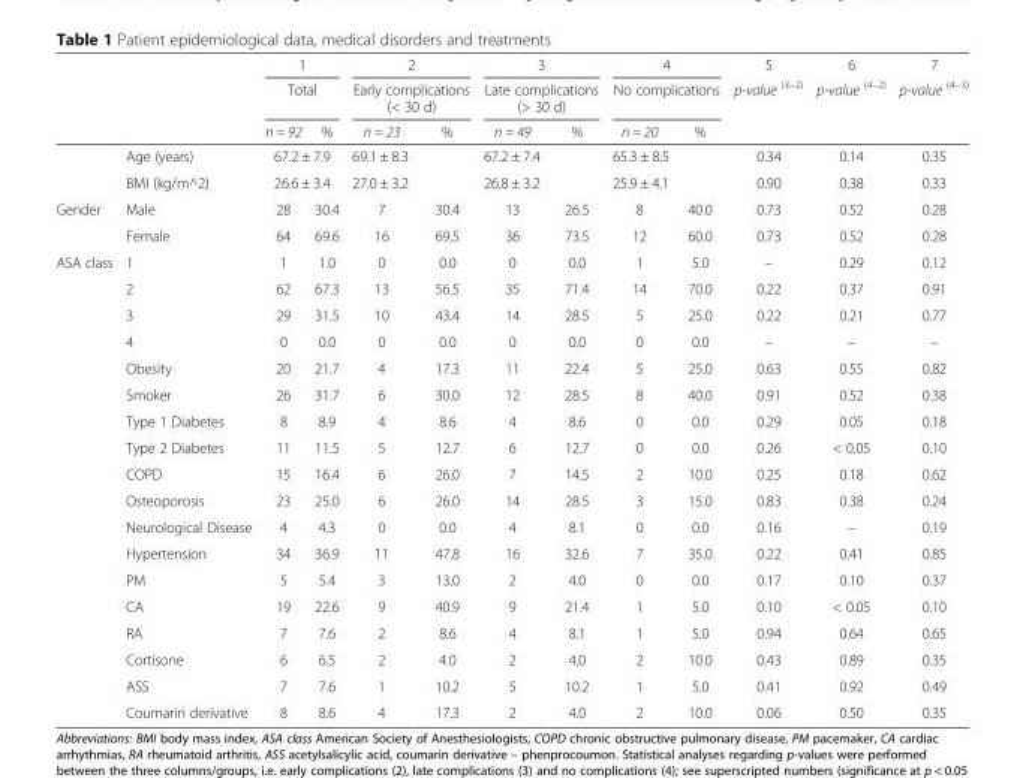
<table><thead><tr><td rowspan="3"></td><td rowspan="3"></td><td rowspan="2" colspan="2">1 Total</td><td rowspan="2" colspan="2">2 Early complications (&lt; 30 d)</td><td rowspan="2" colspan="2">3 Late complications (&gt; 30 d)</td><td rowspan="2" colspan="2">4 No complications</td><td rowspan="3">5 p-value (3–2)</td><td rowspan="3">6 p-value (4–2)</td><td rowspan="3">7 p-value (4–3)</td></tr><tr></tr><tr><td>n = 92</td><td>%</td><td>n = 23</td><td>%</td><td>n = 49</td><td>%</td><td>n = 20</td><td>%</td></tr></thead><tbody><tr><td></td><td>Age (years)</td><td colspan="2">67.2 ± 7.9</td><td colspan="2">69.1 ± 8.3</td><td colspan="2">67.2 ± 7.4</td><td colspan="2">65.3 ± 8.5</td><td>0.34</td><td>0.14</td><td>0.35</td></tr><tr><td></td><td>BMI (kg/m^2)</td><td colspan="2">26.6 ± 3.4</td><td colspan="2">27.0 ± 3.2</td><td colspan="2">26.8 ± 3.2</td><td colspan="2">25.9 ± 4.1</td><td>0.90</td><td>0.38</td><td>0.33</td></tr><tr><td rowspan="2">Gender</td><td>Male</td><td>28</td><td>30.4</td><td>7</td><td>30.4</td><td>13</td><td>26.5</td><td>8</td><td>40.0</td><td>0.73</td><td>0.52</td><td>0.28</td></tr><tr><td>Female</td><td>64</td><td>69.6</td><td>16</td><td>69.5</td><td>36</td><td>73.5</td><td>12</td><td>60.0</td><td>0.73</td><td>0.52</td><td>0.28</td></tr><tr><td rowspan="18">ASA class</td><td>1</td><td>1</td><td>1.0</td><td>0</td><td>0.0</td><td>0</td><td>0.0</td><td>1</td><td>5.0</td><td>–</td><td>0.29</td><td>0.12</td></tr><tr><td>2</td><td>62</td><td>67.3</td><td>13</td><td>56.5</td><td>35</td><td>71.4</td><td>14</td><td>70.0</td><td>0.22</td><td>0.37</td><td>0.91</td></tr><tr><td>3</td><td>29</td><td>31.5</td><td>10</td><td>43.4</td><td>14</td><td>28.5</td><td>5</td><td>25.0</td><td>0.22</td><td>0.21</td><td>0.77</td></tr><tr><td>4</td><td>0</td><td>0.0</td><td>0</td><td>0.0</td><td>0</td><td>0.0</td><td>0</td><td>0.0</td><td>–</td><td>–</td><td>–</td></tr><tr><td>Obesity</td><td>20</td><td>21.7</td><td>4</td><td>17.3</td><td>11</td><td>22.4</td><td>5</td><td>25.0</td><td>0.63</td><td>0.55</td><td>0.82</td></tr><tr><td>Smoker</td><td>26</td><td>31.7</td><td>6</td><td>30.0</td><td>12</td><td>28.5</td><td>8</td><td>40.0</td><td>0.91</td><td>0.52</td><td>0.38</td></tr><tr><td>Type 1 Diabetes</td><td>8</td><td>8.9</td><td>4</td><td>8.6</td><td>4</td><td>8.6</td><td>0</td><td>0.0</td><td>0.29</td><td>0.05</td><td>0.18</td></tr><tr><td>Type 2 Diabetes</td><td>11</td><td>11.5</td><td>5</td><td>12.7</td><td>6</td><td>12.7</td><td>0</td><td>0.0</td><td>0.26</td><td>&lt; 0.05</td><td>0.10</td></tr><tr><td>COPD</td><td>15</td><td>16.4</td><td>6</td><td>26.0</td><td>7</td><td>14.5</td><td>2</td><td>10.0</td><td>0.25</td><td>0.18</td><td>0.62</td></tr><tr><td>Osteoporosis</td><td>23</td><td>25.0</td><td>6</td><td>26.0</td><td>14</td><td>28.5</td><td>3</td><td>15.0</td><td>0.83</td><td>0.38</td><td>0.24</td></tr><tr><td>Neurological Disease</td><td>4</td><td>4.3</td><td>0</td><td>0.0</td><td>4</td><td>8.1</td><td>0</td><td>0.0</td><td>0.16</td><td>–</td><td>0.19</td></tr><tr><td>Hypertension</td><td>34</td><td>36.9</td><td>11</td><td>47.8</td><td>16</td><td>32.6</td><td>7</td><td>35.0</td><td>0.22</td><td>0.41</td><td>0.85</td></tr><tr><td>PM</td><td>5</td><td>5.4</td><td>3</td><td>13.0</td><td>2</td><td>4.0</td><td>0</td><td>0.0</td><td>0.17</td><td>0.10</td><td>0.37</td></tr><tr><td>CA</td><td>19</td><td>22.6</td><td>9</td><td>40.9</td><td>9</td><td>21.4</td><td>1</td><td>5.0</td><td>0.10</td><td>&lt; 0.05</td><td>0.10</td></tr><tr><td>RA</td><td>7</td><td>7.6</td><td>2</td><td>8.6</td><td>4</td><td>8.1</td><td>1</td><td>5.0</td><td>0.94</td><td>0.64</td><td>0.65</td></tr><tr><td>Cortisone</td><td>6</td><td>6.5</td><td>2</td><td>4.0</td><td>2</td><td>4.0</td><td>2</td><td>10.0</td><td>0.43</td><td>0.89</td><td>0.35</td></tr><tr><td>ASS</td><td>7</td><td>7.6</td><td>1</td><td>10.2</td><td>5</td><td>10.2</td><td>1</td><td>5.0</td><td>0.41</td><td>0.92</td><td>0.49</td></tr><tr><td>Coumarin derivative</td><td>8</td><td>8.6</td><td>4</td><td>17.3</td><td>2</td><td>4.0</td><td>2</td><td>10.0</td><td>0.06</td><td>0.50</td><td>0.35</td></tr></tbody></table>